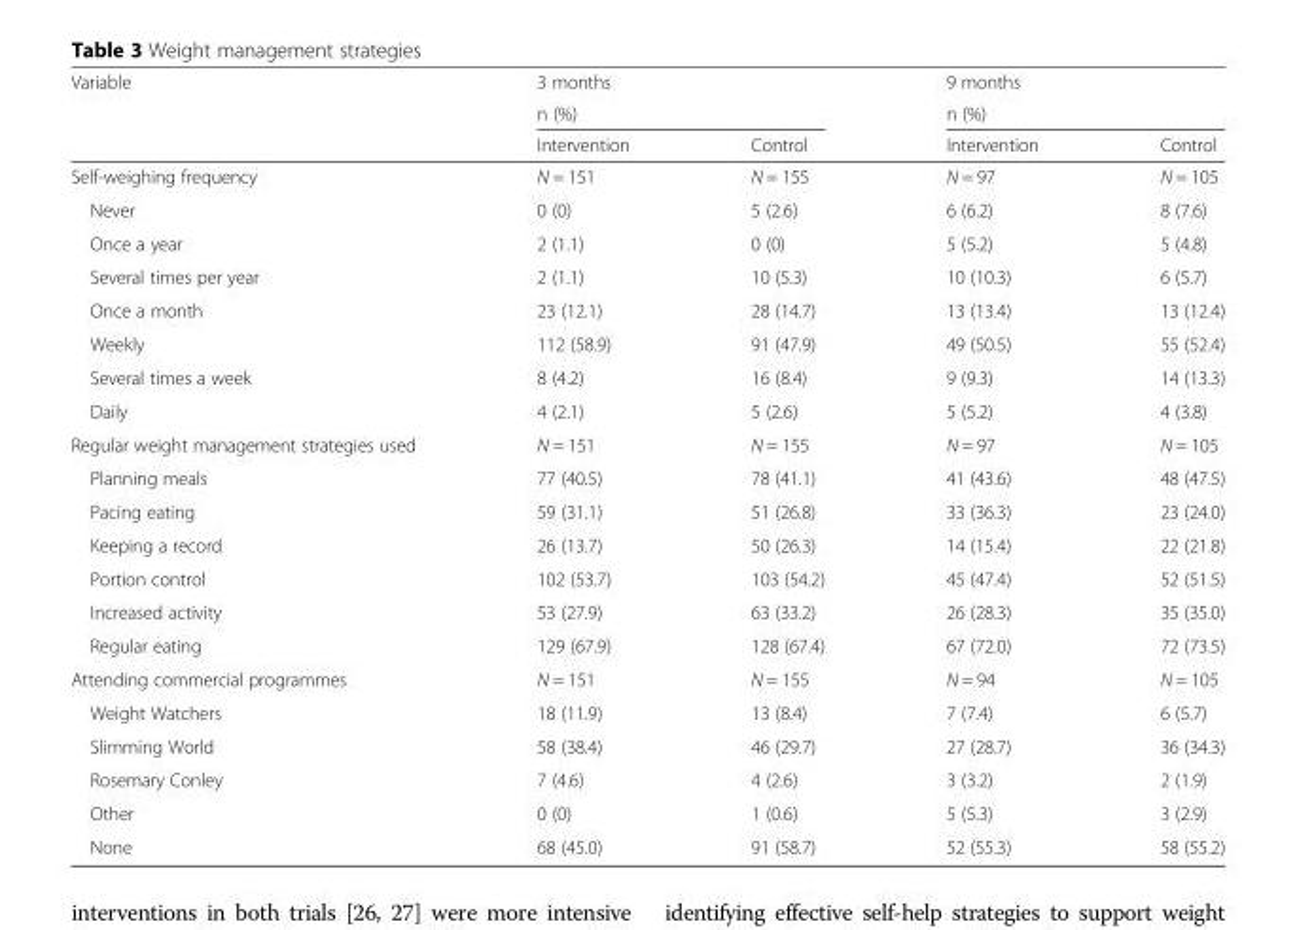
<table><thead><tr><td rowspan="3">Variable</td><td rowspan="2" colspan="2">3 months n (%)</td><td rowspan="2" colspan="2">9 months n (%)</td></tr><tr></tr><tr><td>Intervention</td><td>Control</td><td>Intervention</td><td>Control</td></tr></thead><tbody><tr><td>Self-weighing frequency</td><td>N = 151</td><td>N = 155</td><td>N = 97</td><td>N = 105</td></tr><tr><td>Never</td><td>0 (0)</td><td>5 (2.6)</td><td>6 (6.2)</td><td>8 (7.6)</td></tr><tr><td>Once a year</td><td>2 (1.1)</td><td>0 (0)</td><td>5 (5.2)</td><td>5 (4.8)</td></tr><tr><td>Several times per year</td><td>2 (1.1)</td><td>10 (5.3)</td><td>10 (10.3)</td><td>6 (5.7)</td></tr><tr><td>Once a month</td><td>23 (12.1)</td><td>28 (14.7)</td><td>13 (13.4)</td><td>13 (12.4)</td></tr><tr><td>Weekly</td><td>112 (58.9)</td><td>91 (47.9)</td><td>49 (50.5)</td><td>55 (52.4)</td></tr><tr><td>Several times a week</td><td>8 (4.2)</td><td>16 (8.4)</td><td>9 (9.3)</td><td>14 (13.3)</td></tr><tr><td>Daily</td><td>4 (2.1)</td><td>5 (2.6)</td><td>5 (5.2)</td><td>4 (3.8)</td></tr><tr><td>Regular weight management strategies used</td><td>N = 151</td><td>N = 155</td><td>N = 97</td><td>N = 105</td></tr><tr><td>Planning meals</td><td>77 (40.5)</td><td>78 (41.1)</td><td>41 (43.6)</td><td>48 (47.5)</td></tr><tr><td>Pacing eating</td><td>59 (31.1)</td><td>51 (26.8)</td><td>33 (36.3)</td><td>23 (24.0)</td></tr><tr><td>Keeping a record</td><td>26 (13.7)</td><td>50 (26.3)</td><td>14 (15.4)</td><td>22 (21.8)</td></tr><tr><td>Portion control</td><td>102 (53.7)</td><td>103 (54.2)</td><td>45 (47.4)</td><td>52 (51.5)</td></tr><tr><td>Increased activity</td><td>53 (27.9)</td><td>63 (33.2)</td><td>26 (28.3)</td><td>35 (35.0)</td></tr><tr><td>Regular eating</td><td>129 (67.9)</td><td>128 (67.4)</td><td>67 (72.0)</td><td>72 (73.5)</td></tr><tr><td>Attending commercial programmes</td><td>N = 151</td><td>N = 155</td><td>N = 94</td><td>N = 105</td></tr><tr><td>Weight Watchers</td><td>18 (11.9)</td><td>13 (8.4)</td><td>7 (7.4)</td><td>6 (5.7)</td></tr><tr><td>Slimming World</td><td>58 (38.4)</td><td>46 (29.7)</td><td>27 (28.7)</td><td>36 (34.3)</td></tr><tr><td>Rosemary Conley</td><td>7 (4.6)</td><td>4 (2.6)</td><td>3 (3.2)</td><td>2 (1.9)</td></tr><tr><td>Other</td><td>0 (0)</td><td>1 (0.6)</td><td>5 (5.3)</td><td>3 (2.9)</td></tr><tr><td>None</td><td>68 (45.0)</td><td>91 (58.7)</td><td>52 (55.3)</td><td>58 (55.2)</td></tr></tbody></table>